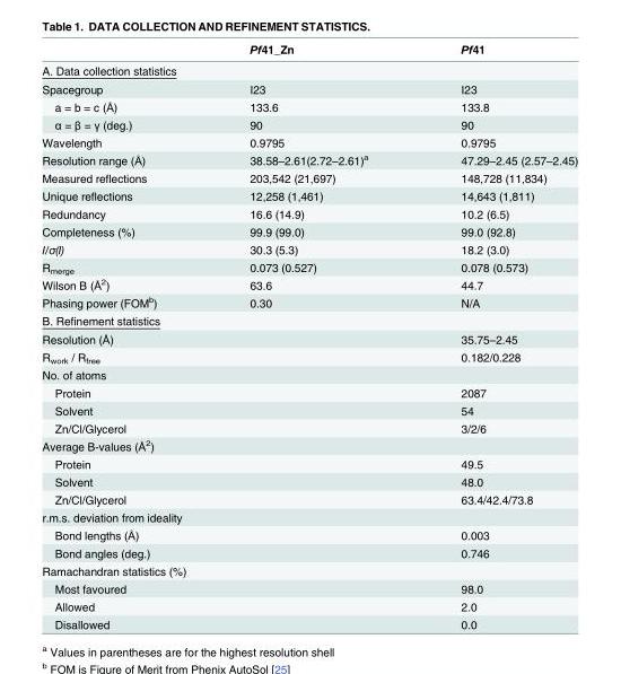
<table><thead><tr><td></td><td>Pf41_Zn</td><td>Pf41</td></tr></thead><tbody><tr><td colspan="3">A. Data collection statistics</td></tr><tr><td>Spacegroup</td><td>I23</td><td>I23</td></tr><tr><td>a = b = c (Å)</td><td>133.6</td><td>133.8</td></tr><tr><td>α = β = γ (deg.)</td><td>90</td><td>90</td></tr><tr><td>Wavelength</td><td>0.9795</td><td>0.9795</td></tr><tr><td>Resolution range (Å)</td><td>38.58–2.61(2.72–2.61)<sup>a</sup></td><td>47.29–2.45 (2.57–2.45)</td></tr><tr><td>Measured reflections</td><td>203,542 (21,697)</td><td>148,728 (11,834)</td></tr><tr><td>Unique reflections</td><td>12,258 (1,461)</td><td>14,643 (1,811)</td></tr><tr><td>Redundancy</td><td>16.6 (14.9)</td><td>10.2 (6.5)</td></tr><tr><td>Completeness (%)</td><td>99.9 (99.0)</td><td>99.0 (92.8)</td></tr><tr><td>I/σ(I)</td><td>30.3 (5.3)</td><td>18.2 (3.0)</td></tr><tr><td>R<sub>merge</sub></td><td>0.073 (0.527)</td><td>0.078 (0.573)</td></tr><tr><td>Wilson B (Å<sup>2</sup>)</td><td>63.6</td><td>44.7</td></tr><tr><td>Phasing power (FOM<sup>b</sup>)</td><td>0.30</td><td>N/A</td></tr><tr><td colspan="3">B. Refinement statistics</td></tr><tr><td>Resolution (Å)</td><td></td><td>35.75–2.45</td></tr><tr><td>R<sub>work</sub> / R<sub>free</sub></td><td></td><td>0.182/0.228</td></tr><tr><td colspan="3">No. of atoms</td></tr><tr><td>Protein</td><td></td><td>2087</td></tr><tr><td>Solvent</td><td></td><td>54</td></tr><tr><td>Zn/Cl/Glycerol</td><td></td><td>3/2/6</td></tr><tr><td colspan="3">Average B-values (Å<sup>2</sup>)</td></tr><tr><td>Protein</td><td></td><td>49.5</td></tr><tr><td>Solvent</td><td></td><td>48.0</td></tr><tr><td>Zn/Cl/Glycerol</td><td></td><td>63.4/42.4/73.8</td></tr><tr><td colspan="3">r.m.s. deviation from ideality</td></tr><tr><td>Bond lengths (Å)</td><td></td><td>0.003</td></tr><tr><td>Bond angles (deg.)</td><td></td><td>0.746</td></tr><tr><td colspan="3">Ramachandran statistics (%)</td></tr><tr><td>Most favoured</td><td></td><td>98.0</td></tr><tr><td>Allowed</td><td></td><td>2.0</td></tr><tr><td>Disallowed</td><td></td><td>0.0</td></tr></tbody></table>